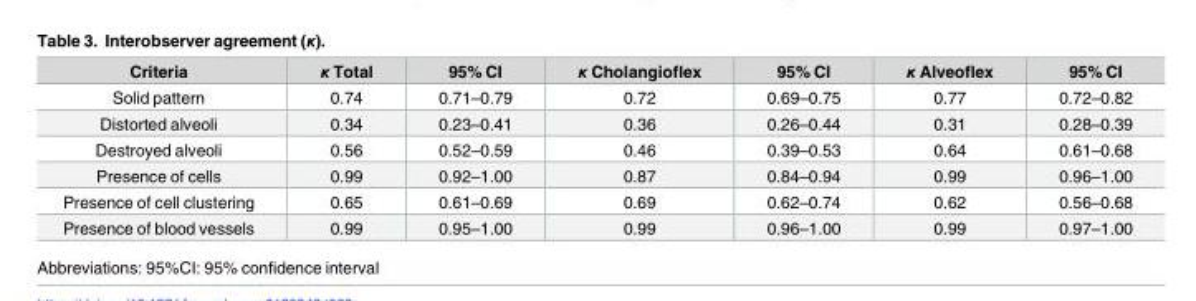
<table><thead><tr><td>Criteria</td><td>κ Total</td><td>95% CI</td><td>κ Cholangioflex</td><td>95% CI</td><td>κ Alveoflex</td><td>95% CI</td></tr></thead><tbody><tr><td>Solid pattern</td><td>0.74</td><td>0.71–0.79</td><td>0.72</td><td>0.69–0.75</td><td>0.77</td><td>0.72–0.82</td></tr><tr><td>Distorted alveoli</td><td>0.34</td><td>0.23–0.41</td><td>0.36</td><td>0.26–0.44</td><td>0.31</td><td>0.28–0.39</td></tr><tr><td>Destroyed alveoli</td><td>0.56</td><td>0.52–0.59</td><td>0.46</td><td>0.39–0.53</td><td>0.64</td><td>0.61–0.68</td></tr><tr><td>Presence of cells</td><td>0.99</td><td>0.92–1.00</td><td>0.87</td><td>0.84–0.94</td><td>0.99</td><td>0.96–1.00</td></tr><tr><td>Presence of cell clustering</td><td>0.65</td><td>0.61–0.69</td><td>0.69</td><td>0.62–0.74</td><td>0.62</td><td>0.56–0.68</td></tr><tr><td>Presence of blood vessels</td><td>0.99</td><td>0.95–1.00</td><td>0.99</td><td>0.96–1.00</td><td>0.99</td><td>0.97–1.00</td></tr></tbody></table>